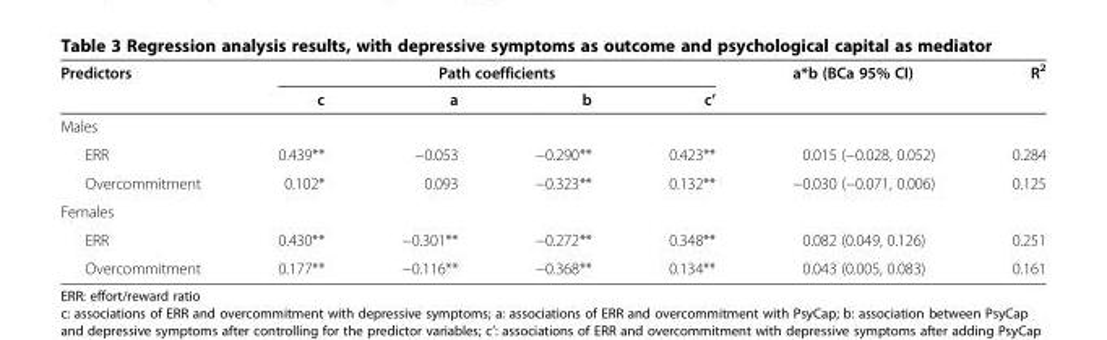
<table><thead><tr><td rowspan="2">Predictors</td><td colspan="4">Path coefficients</td><td rowspan="2">a*b (BCa 95% CI)</td><td rowspan="2">R<sup>2</sup></td></tr><tr><td>c</td><td>a</td><td>b</td><td>c’</td></tr></thead><tbody><tr><td colspan="7">Males</td></tr><tr><td>ERR</td><td>0.439**</td><td>−0.053</td><td>−0.290**</td><td>0.423**</td><td>0.015 (−0.028, 0.052)</td><td>0.284</td></tr><tr><td>Overcommitment</td><td>0.102*</td><td>0.093</td><td>−0.323**</td><td>0.132**</td><td>−0.030 (−0.071, 0.006)</td><td>0.125</td></tr><tr><td colspan="7">Females</td></tr><tr><td>ERR</td><td>0.430**</td><td>−0.301**</td><td>−0.272**</td><td>0.348**</td><td>0.082 (0.049, 0.126)</td><td>0.251</td></tr><tr><td>Overcommitment</td><td>0.177**</td><td>−0.116**</td><td>−0.368**</td><td>0.134**</td><td>0.043 (0.005, 0.083)</td><td>0.161</td></tr></tbody></table>